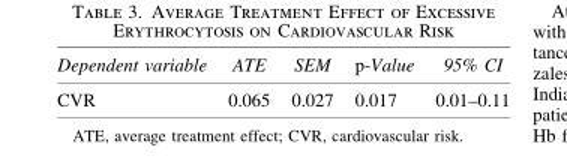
<table><thead><tr><td>Dependent variable</td><td>ATE</td><td>SEM</td><td>p-Value</td><td>95% CI</td></tr></thead><tbody><tr><td>CVR</td><td>0.065</td><td>0.027</td><td>0.017</td><td>0.01–0.11</td></tr></tbody></table>